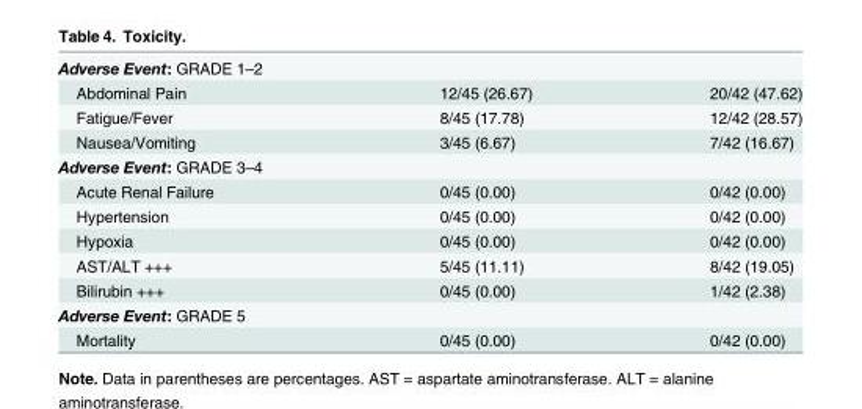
<table><tbody><tr><td colspan="3">Adverse Event: GRADE 1–2</td></tr><tr><td>Abdominal Pain</td><td>12/45 (26.67)</td><td>20/42 (47.62)</td></tr><tr><td>Fatigue/Fever</td><td>8/45 (17.78)</td><td>12/42 (28.57)</td></tr><tr><td>Nausea/Vomiting</td><td>3/45 (6.67)</td><td>7/42 (16.67)</td></tr><tr><td colspan="3">Adverse Event: GRADE 3–4</td></tr><tr><td>Acute Renal Failure</td><td>0/45 (0.00)</td><td>0/42 (0.00)</td></tr><tr><td>Hypertension</td><td>0/45 (0.00)</td><td>0/42 (0.00)</td></tr><tr><td>Hypoxia</td><td>0/45 (0.00)</td><td>0/42 (0.00)</td></tr><tr><td>AST/ALT +++</td><td>5/45 (11.11)</td><td>8/42 (19.05)</td></tr><tr><td>Bilirubin +++</td><td>0/45 (0.00)</td><td>1/42 (2.38)</td></tr><tr><td colspan="3">Adverse Event: GRADE 5</td></tr><tr><td>Mortality</td><td>0/45 (0.00)</td><td>0/42 (0.00)</td></tr></tbody></table>